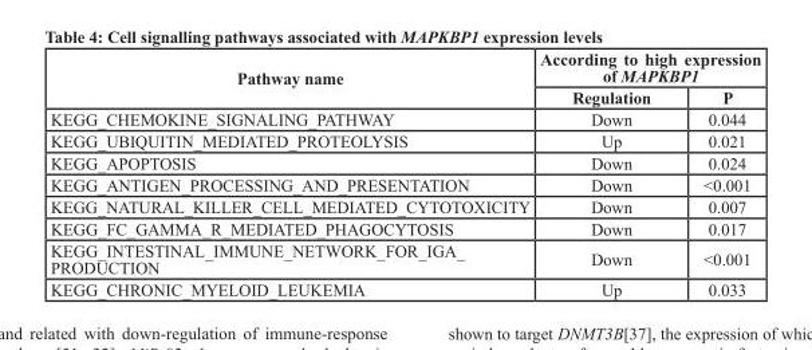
<table><thead><tr><td rowspan="2">Pathway name</td><td colspan="2">According to high expression of MAPKBP1</td></tr><tr><td>Regulation</td><td>P</td></tr></thead><tbody><tr><td>KEGG_CHEMOKINE_SIGNALING_PATHWAY</td><td>Down</td><td>0.044</td></tr><tr><td>KEGG_UBIQUITIN_MEDIATED_PROTEOLYSIS</td><td>Up</td><td>0.021</td></tr><tr><td>KEGG_APOPTOSIS</td><td>Down</td><td>0.024</td></tr><tr><td>KEGG_ANTIGEN_PROCESSING_AND_PRESENTATION</td><td>Down</td><td>&lt;0.001</td></tr><tr><td>KEGG_NATURAL_KILLER_CELL_MEDIATED_CYTOTOXICITY</td><td>Down</td><td>0.007</td></tr><tr><td>KEGG_FC_GAMMA_R_MEDIATED_PHAGOCYTOSIS</td><td>Down</td><td>0.017</td></tr><tr><td>KEGG_INTESTINAL_IMMUNE_NETWORK_FOR_IGA_ PRODUCTION</td><td>Down</td><td>&lt;0.001</td></tr><tr><td>KEGG_CHRONIC_MYELOID_LEUKEMIA</td><td>Up</td><td>0.033</td></tr></tbody></table>